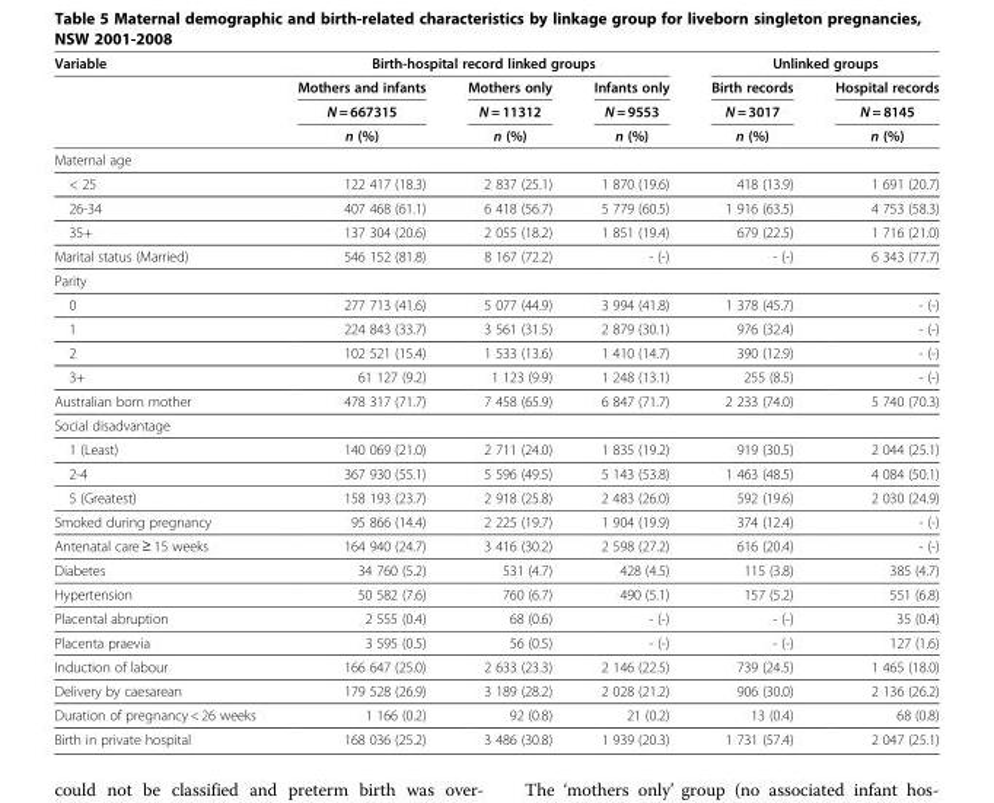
<table><thead><tr><td rowspan="4">Variable</td><td colspan="3">Birth-hospital record linked groups</td><td colspan="2">Unlinked groups</td></tr><tr><td rowspan="3">Mothers and infants N = 667315 n (%)</td><td rowspan="3">Mothers only N = 11312 n (%)</td><td rowspan="3">Infants only N = 9553 n (%)</td><td rowspan="3">Birth records N = 3017 n (%)</td><td rowspan="3">Hospital records N = 8145 n (%)</td></tr><tr></tr><tr></tr></thead><tbody><tr><td colspan="6">Maternal age</td></tr><tr><td>&lt; 25</td><td>122 417 (18.3)</td><td>2 837 (25.1)</td><td>1 870 (19.6)</td><td>418 (13.9)</td><td>1 691 (20.7)</td></tr><tr><td>26-34</td><td>407 468 (61.1)</td><td>6 418 (56.7)</td><td>5 779 (60.5)</td><td>1 916 (63.5)</td><td>4 753 (58.3)</td></tr><tr><td>35+</td><td>137 304 (20.6)</td><td>2 055 (18.2)</td><td>1 851 (19.4)</td><td>679 (22.5)</td><td>1 716 (21.0)</td></tr><tr><td>Marital status (Married)</td><td>546 152 (81.8)</td><td>8 167 (72.2)</td><td>- (-)</td><td>- (-)</td><td>6 343 (77.7)</td></tr><tr><td colspan="6">Parity</td></tr><tr><td>0</td><td>277 713 (41.6)</td><td>5 077 (44.9)</td><td>3 994 (41.8)</td><td>1 378 (45.7)</td><td>- (-)</td></tr><tr><td>1</td><td>224 843 (33.7)</td><td>3 561 (31.5)</td><td>2 879 (30.1)</td><td>976 (32.4)</td><td>- (-)</td></tr><tr><td>2</td><td>102 521 (15.4)</td><td>1 533 (13.6)</td><td>1 410 (14.7)</td><td>390 (12.9)</td><td>- (-)</td></tr><tr><td>3+</td><td>61 127 (9.2)</td><td>1 123 (9.9)</td><td>1 248 (13.1)</td><td>255 (8.5)</td><td>- (-)</td></tr><tr><td>Australian born mother</td><td>478 317 (71.7)</td><td>7 458 (65.9)</td><td>6 847 (71.7)</td><td>2 233 (74.0)</td><td>5 740 (70.3)</td></tr><tr><td colspan="6">Social disadvantage</td></tr><tr><td>1 (Least)</td><td>140 069 (21.0)</td><td>2 711 (24.0)</td><td>1 835 (19.2)</td><td>919 (30.5)</td><td>2 044 (25.1)</td></tr><tr><td>2-4</td><td>367 930 (55.1)</td><td>5 596 (49.5)</td><td>5 143 (53.8)</td><td>1 463 (48.5)</td><td>4 084 (50.1)</td></tr><tr><td>5 (Greatest)</td><td>158 193 (23.7)</td><td>2 918 (25.8)</td><td>2 483 (26.0)</td><td>592 (19.6)</td><td>2 030 (24.9)</td></tr><tr><td>Smoked during pregnancy</td><td>95 866 (14.4)</td><td>2 225 (19.7)</td><td>1 904 (19.9)</td><td>374 (12.4)</td><td>- (-)</td></tr><tr><td>Antenatal care ≥ 15 weeks</td><td>164 940 (24.7)</td><td>3 416 (30.2)</td><td>2 598 (27.2)</td><td>616 (20.4)</td><td>- (-)</td></tr><tr><td>Diabetes</td><td>34 760 (5.2)</td><td>531 (4.7)</td><td>428 (4.5)</td><td>115 (3.8)</td><td>385 (4.7)</td></tr><tr><td>Hypertension</td><td>50 582 (7.6)</td><td>760 (6.7)</td><td>490 (5.1)</td><td>157 (5.2)</td><td>551 (6.8)</td></tr><tr><td>Placental abruption</td><td>2 555 (0.4)</td><td>68 (0.6)</td><td>- (-)</td><td>- (-)</td><td>35 (0.4)</td></tr><tr><td>Placenta praevia</td><td>3 595 (0.5)</td><td>56 (0.5)</td><td>- (-)</td><td>- (-)</td><td>127 (1.6)</td></tr><tr><td>Induction of labour</td><td>166 647 (25.0)</td><td>2 633 (23.3)</td><td>2 146 (22.5)</td><td>739 (24.5)</td><td>1 465 (18.0)</td></tr><tr><td>Delivery by caesarean</td><td>179 528 (26.9)</td><td>3 189 (28.2)</td><td>2 028 (21.2)</td><td>906 (30.0)</td><td>2 136 (26.2)</td></tr><tr><td>Duration of pregnancy &lt; 26 weeks</td><td>1 166 (0.2)</td><td>92 (0.8)</td><td>21 (0.2)</td><td>13 (0.4)</td><td>68 (0.8)</td></tr><tr><td>Birth in private hospital</td><td>168 036 (25.2)</td><td>3 486 (30.8)</td><td>1 939 (20.3)</td><td>1 731 (57.4)</td><td>2 047 (25.1)</td></tr></tbody></table>